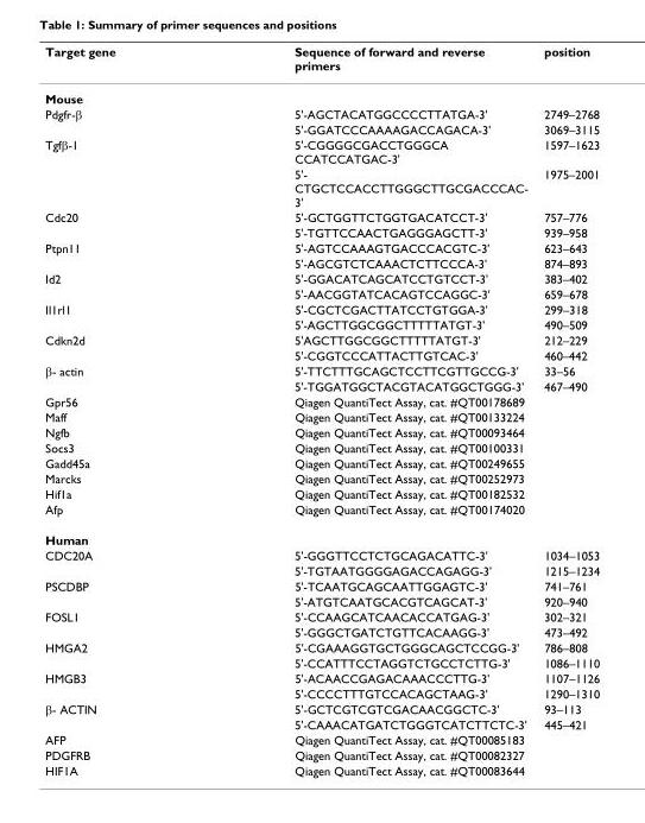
<table><thead><tr><td>Target gene</td><td>Sequence of forward and reverse primers</td><td>position</td></tr></thead><tbody><tr><td colspan="3">Mouse</td></tr><tr><td rowspan="2">Pdgfr-β</td><td>5&#x27;-AGCTACATGGCCCCTTATGA-3&#x27;</td><td>2749–2768</td></tr><tr><td>5&#x27;-GGATCCCAAAAGACCAGACA-3&#x27;</td><td>3069–3115</td></tr><tr><td rowspan="2">Tgfβ-1</td><td>5&#x27;-CGGGGCGACCTGGGCA CCATCCATGAC-3&#x27;</td><td>1597–1623</td></tr><tr><td>5&#x27;- CTGCTCCACCTTGGGCTTGCGACCCAC- 3&#x27;</td><td>1975–2001</td></tr><tr><td rowspan="2">Cdc20</td><td>5&#x27;-GCTGGTTCTGGTGACATCCT-3&#x27;</td><td>757–776</td></tr><tr><td>5&#x27;-TGTTCCAACTGAGGGAGCTT-3&#x27;</td><td>939–958</td></tr><tr><td rowspan="2">Ptpn11</td><td>5&#x27;-AGTCCAAAGTGACCCACGTC-3&#x27;</td><td>623–643</td></tr><tr><td>5&#x27;-AGCGTCTCAAACTCTTCCCA-3&#x27;</td><td>874–893</td></tr><tr><td rowspan="2">Id2</td><td>5&#x27;-GGACATCAGCATCCTGTCCT-3&#x27;</td><td>383–402</td></tr><tr><td>5&#x27;-AACGGTATCACAGTCCAGGC-3&#x27;</td><td>659–678</td></tr><tr><td rowspan="2">Il1rl1</td><td>5&#x27;-CGCTCGACTTATCCTGTGGA-3&#x27;</td><td>299–318</td></tr><tr><td>5&#x27;-AGCTTGGCGGCTTTTTATGT-3&#x27;</td><td>490–509</td></tr><tr><td rowspan="2">Cdkn2d</td><td>5&#x27;AGCTTGGCGGCTTTTTATGT-3&#x27;</td><td>212–229</td></tr><tr><td>5&#x27;-CGGTCCCATTACTTGTCAC-3&#x27;</td><td>460–442</td></tr><tr><td rowspan="2">β- actin</td><td>5&#x27;-TTCTTTGCAGCTCCTTCGTTGCCG-3&#x27;</td><td>33–56</td></tr><tr><td>5&#x27;-TGGATGGCTACGTACATGGCTGGG-3&#x27;</td><td>467–490</td></tr><tr><td>Gpr56</td><td>Qiagen QuantiTect Assay, cat. #QT00178689</td><td></td></tr><tr><td>Maff</td><td>Qiagen QuantiTect Assay, cat. #QT00133224</td><td></td></tr><tr><td>Ngfb</td><td>Qiagen QuantiTect Assay, cat. #QT00093464</td><td></td></tr><tr><td>Socs3</td><td>Qiagen QuantiTect Assay, cat. #QT00100331</td><td></td></tr><tr><td>Gadd45a</td><td>Qiagen QuantiTect Assay, cat. #QT00249655</td><td></td></tr><tr><td>Marcks</td><td>Qiagen QuantiTect Assay, cat. #QT00252973</td><td></td></tr><tr><td>Hif1a</td><td>Qiagen QuantiTect Assay, cat. #QT00182532</td><td></td></tr><tr><td>Afp</td><td>Qiagen QuantiTect Assay, cat. #QT00174020</td><td></td></tr><tr><td colspan="3">Human</td></tr><tr><td rowspan="2">CDC20A</td><td>5&#x27;-GGGTTCCTCTGCAGACATTC-3&#x27;</td><td>1034–1053</td></tr><tr><td>5&#x27;-TGTAATGGGGAGACCAGAGG-3&#x27;</td><td>1215–1234</td></tr><tr><td rowspan="2">PSCDBP</td><td>5&#x27;-TCAATGCAGCAATTGGAGTC-3&#x27;</td><td>741–761</td></tr><tr><td>5&#x27;-ATGTCAATGCACGTCAGCAT-3&#x27;</td><td>920–940</td></tr><tr><td rowspan="2">FOSL1</td><td>5&#x27;-CCAAGCATCAACACCATGAG-3&#x27;</td><td>302–321</td></tr><tr><td>5&#x27;-GGGCTGATCTGTTCACAAGG-3&#x27;</td><td>473–492</td></tr><tr><td rowspan="2">HMGA2</td><td>5&#x27;-CGAAAGGTGCTGGGCAGCTCCGG-3&#x27;</td><td>786–808</td></tr><tr><td>5&#x27;-CCATTTCCTAGGTCTGCCTCTTG-3&#x27;</td><td>1086–1110</td></tr><tr><td rowspan="2">HMGB3</td><td>5&#x27;-ACAACCGAGACAAACCCTTG-3&#x27;</td><td>1107–1126</td></tr><tr><td>5&#x27;-CCCCTTTGTCCACAGCTAAG-3&#x27;</td><td>1290–1310</td></tr><tr><td rowspan="2">β- ACTIN</td><td>5&#x27;-GCTCGTCGTCGACAACGGCTC-3&#x27;</td><td>93–113</td></tr><tr><td>5&#x27;-CAAACATGATCTGGGTCATCTTCTC-3&#x27;</td><td>445–421</td></tr><tr><td>AFP</td><td>Qiagen QuantiTect Assay, cat. #QT00085183</td><td></td></tr><tr><td>PDGFRB</td><td>Qiagen QuantiTect Assay, cat. #QT00082327</td><td></td></tr><tr><td>HIF1A</td><td>Qiagen QuantiTect Assay, cat. #QT00083644</td><td></td></tr></tbody></table>